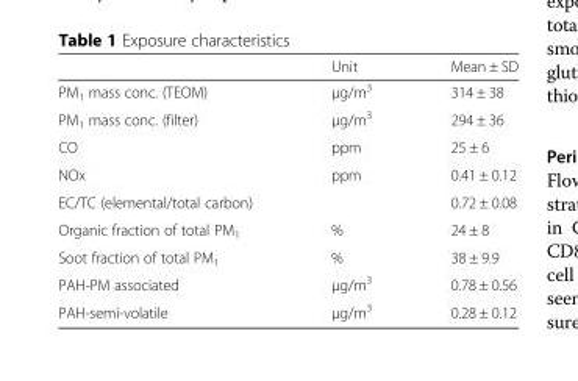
<table><thead><tr><td></td><td>Unit</td><td>Mean ± SD</td></tr></thead><tbody><tr><td>PM<sub>1</sub> mass conc. (TEOM)</td><td>μg/m<sup>3</sup></td><td>314 ± 38</td></tr><tr><td>PM<sub>1</sub> mass conc. (filter)</td><td>μg/m<sup>3</sup></td><td>294 ± 36</td></tr><tr><td>CO</td><td>ppm</td><td>25 ± 6</td></tr><tr><td>NOx</td><td>ppm</td><td>0.41 ± 0.12</td></tr><tr><td>EC/TC (elemental/total carbon)</td><td></td><td>0.72 ± 0.08</td></tr><tr><td>Organic fraction of total PM<sub>1</sub></td><td>%</td><td>24 ± 8</td></tr><tr><td>Soot fraction of total PM<sub>1</sub></td><td>%</td><td>38 ± 9.9</td></tr><tr><td>PAH-PM associated</td><td>μg/m<sup>3</sup></td><td>0.78 ± 0.56</td></tr><tr><td>PAH-semi-volatile</td><td>μg/m<sup>3</sup></td><td>0.28 ± 0.12</td></tr></tbody></table>